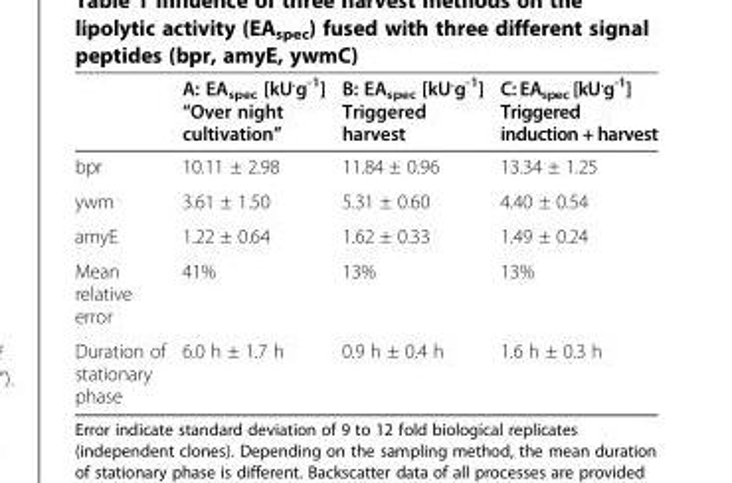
<table><thead><tr><td></td><td>A: EA<sub>spec</sub> [kU<sup>.</sup>g<sup>-1</sup>] “Over night cultivation”</td><td>B: EA<sub>spec</sub> [kU<sup>.</sup>g<sup>-1</sup>] Triggered harvest</td><td>C: EA<sub>spec</sub> [kU<sup>.</sup>g<sup>-1</sup>] Triggered induction + harvest</td></tr></thead><tbody><tr><td>bpr</td><td>10.11 ± 2.98</td><td>11.84 ± 0.96</td><td>13.34 ± 1.25</td></tr><tr><td>ywm</td><td>3.61 ± 1.50</td><td>5.31 ± 0.60</td><td>4.40 ± 0.54</td></tr><tr><td>amyE</td><td>1.22 ± 0.64</td><td>1.62 ± 0.33</td><td>1.49 ± 0.24</td></tr><tr><td>Mean relative error</td><td>41%</td><td>13%</td><td>13%</td></tr><tr><td>Duration of stationary phase</td><td>6.0 h ± 1.7 h</td><td>0.9 h ± 0.4 h</td><td>1.6 h ± 0.3 h</td></tr></tbody></table>